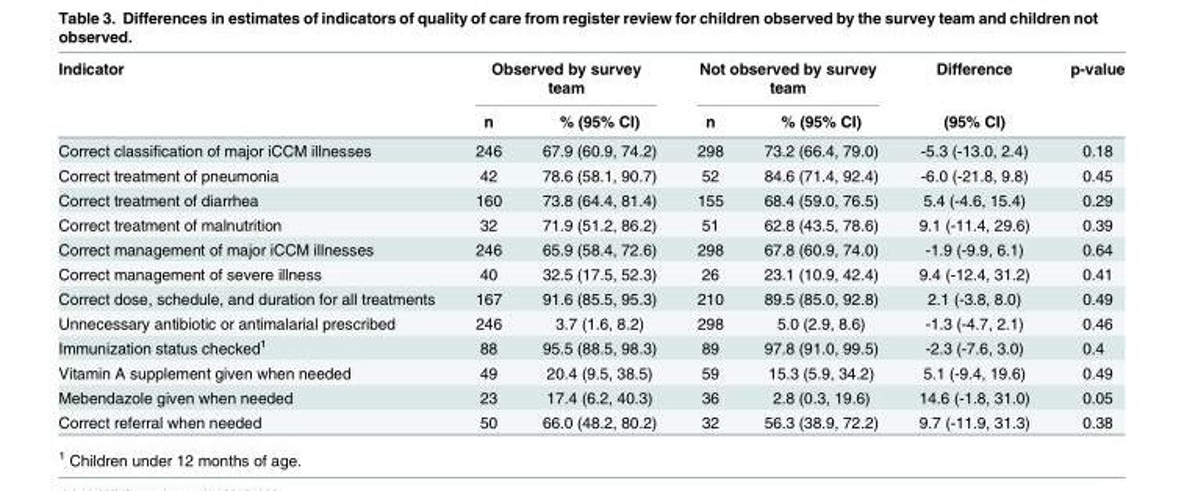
<table><thead><tr><td rowspan="2">Indicator</td><td colspan="2">Observed by survey team</td><td colspan="2">Not observed by survey team</td><td rowspan="2">Difference (95% CI)</td><td rowspan="2">p-value</td></tr><tr><td>n</td><td>% (95% CI)</td><td>n</td><td>% (95% CI)</td></tr></thead><tbody><tr><td>Correct classification of major iCCM illnesses</td><td>246</td><td>67.9 (60.9, 74.2)</td><td>298</td><td>73.2 (66.4, 79.0)</td><td>-5.3 (-13.0, 2.4)</td><td>0.18</td></tr><tr><td>Correct treatment of pneumonia</td><td>42</td><td>78.6 (58.1, 90.7)</td><td>52</td><td>84.6 (71.4, 92.4)</td><td>-6.0 (-21.8, 9.8)</td><td>0.45</td></tr><tr><td>Correct treatment of diarrhea</td><td>160</td><td>73.8 (64.4, 81.4)</td><td>155</td><td>68.4 (59.0, 76.5)</td><td>5.4 (-4.6, 15.4)</td><td>0.29</td></tr><tr><td>Correct treatment of malnutrition</td><td>32</td><td>71.9 (51.2, 86.2)</td><td>51</td><td>62.8 (43.5, 78.6)</td><td>9.1 (-11.4, 29.6)</td><td>0.39</td></tr><tr><td>Correct management of major iCCM illnesses</td><td>246</td><td>65.9 (58.4, 72.6)</td><td>298</td><td>67.8 (60.9, 74.0)</td><td>-1.9 (-9.9, 6.1)</td><td>0.64</td></tr><tr><td>Correct management of severe illness</td><td>40</td><td>32.5 (17.5, 52.3)</td><td>26</td><td>23.1 (10.9, 42.4)</td><td>9.4 (-12.4, 31.2)</td><td>0.41</td></tr><tr><td>Correct dose, schedule, and duration for all treatments</td><td>167</td><td>91.6 (85.5, 95.3)</td><td>210</td><td>89.5 (85.0, 92.8)</td><td>2.1 (-3.8, 8.0)</td><td>0.49</td></tr><tr><td>Unnecessary antibiotic or antimalarial prescribed</td><td>246</td><td>3.7 (1.6, 8.2)</td><td>298</td><td>5.0 (2.9, 8.6)</td><td>-1.3 (-4.7, 2.1)</td><td>0.46</td></tr><tr><td>Immunization status checked<sup>1</sup></td><td>88</td><td>95.5 (88.5, 98.3)</td><td>89</td><td>97.8 (91.0, 99.5)</td><td>-2.3 (-7.6, 3.0)</td><td>0.4</td></tr><tr><td>Vitamin A supplement given when needed</td><td>49</td><td>20.4 (9.5, 38.5)</td><td>59</td><td>15.3 (5.9, 34.2)</td><td>5.1 (-9.4, 19.6)</td><td>0.49</td></tr><tr><td>Mebendazole given when needed</td><td>23</td><td>17.4 (6.2, 40.3)</td><td>36</td><td>2.8 (0.3, 19.6)</td><td>14.6 (-1.8, 31.0)</td><td>0.05</td></tr><tr><td>Correct referral when needed</td><td>50</td><td>66.0 (48.2, 80.2)</td><td>32</td><td>56.3 (38.9, 72.2)</td><td>9.7 (-11.9, 31.3)</td><td>0.38</td></tr></tbody></table>